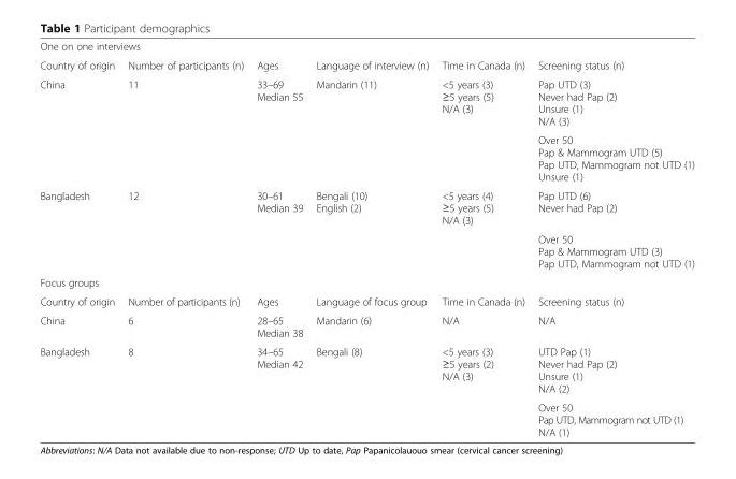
<table><tbody><tr><td colspan="6">One on one interviews</td></tr><tr><td>Country of origin</td><td>Number of participants (n)</td><td>Ages</td><td>Language of interview (n)</td><td>Time in Canada (n)</td><td>Screening status (n)</td></tr><tr><td rowspan="2">China</td><td rowspan="2">11</td><td rowspan="2">33–69 Median 55</td><td rowspan="2">Mandarin (11)</td><td rowspan="2">&lt;5 years (3) ≥5 years (5) N/A (3)</td><td>Pap UTD (3) Never had Pap (2) Unsure (1) N/A (3)</td></tr><tr><td>Over 50 Pap &amp; Mammogram UTD (5) Pap UTD, Mammogram not UTD (1) Unsure (1)</td></tr><tr><td rowspan="2">Bangladesh</td><td>12</td><td>30–61 Median 39</td><td>Bengali (10) English (2)</td><td>&lt;5 years (4) ≥5 years (5) N/A (3)</td><td>Pap UTD (6) Never had Pap (2)</td></tr><tr><td></td><td></td><td></td><td></td><td>Over 50 Pap &amp; Mammogram UTD (3) Pap UTD, Mammogram not UTD (1)</td></tr><tr><td colspan="6">Focus groups</td></tr><tr><td>Country of origin</td><td>Number of participants (n)</td><td>Ages</td><td>Language of focus group</td><td>Time in Canada (n)</td><td>Screening status (n)</td></tr><tr><td>China</td><td>6</td><td>28–65 Median 38</td><td>Mandarin (6)</td><td>N/A</td><td>N/A</td></tr><tr><td rowspan="2">Bangladesh</td><td rowspan="2">8</td><td rowspan="2">34–65 Median 42</td><td rowspan="2">Bengali (8)</td><td rowspan="2">&lt;5 years (3) ≥5 years (2) N/A (3)</td><td>UTD Pap (1) Never had Pap (2) Unsure (1) N/A (2)</td></tr><tr><td>Over 50 Pap UTD, Mammogram not UTD (1) N/A (1)</td></tr></tbody></table>